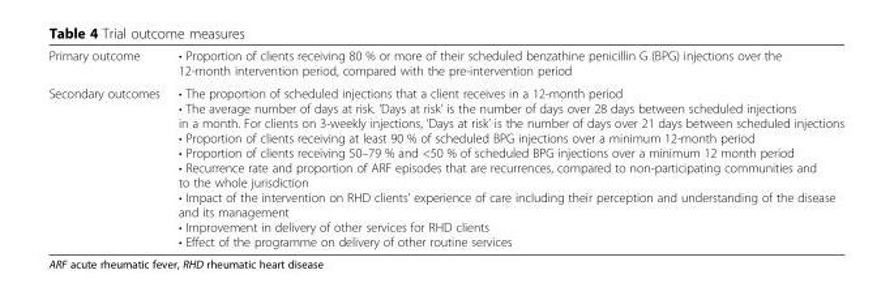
<table><tbody><tr><td>Primary outcome</td><td>• Proportion of clients receiving 80 % or more of their scheduled benzathine penicillin G (BPG) injections over the 12-month intervention period, compared with the pre-intervention period</td></tr><tr><td>Secondary outcomes</td><td>• The proportion of scheduled injections that a client receives in a 12-month period • The average number of days at risk. ‘Days at risk’ is the number of days over 28 days between scheduled injections in a month. For clients on 3-weekly injections, ‘Days at risk’ is the number of days over 21 days between scheduled injections • Proportion of clients receiving at least 90 % of scheduled BPG injections over a minimum 12-month period • Proportion of clients receiving 50–79 % and &lt;50 % of scheduled BPG injections over a minimum 12 month period • Recurrence rate and proportion of ARF episodes that are recurrences, compared to non-participating communities and to the whole jurisdiction • Impact of the intervention on RHD clients’ experience of care including their perception and understanding of the disease and its management • Improvement in delivery of other services for RHD clients • Effect of the programme on delivery of other routine services</td></tr></tbody></table>